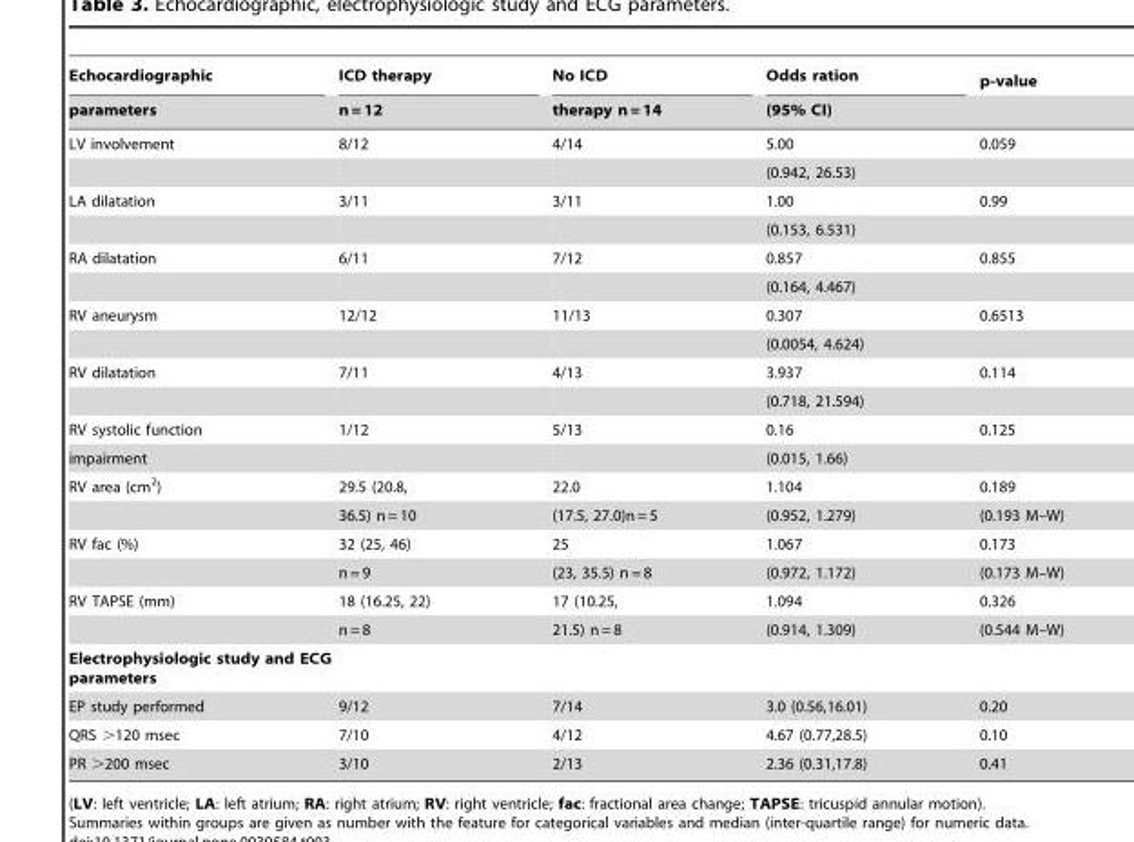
<table><thead><tr><td rowspan="2">Echocardiographic parameters</td><td rowspan="2">ICD therapy n = 12</td><td rowspan="2">No ICD therapy n = 14</td><td rowspan="2">Odds ration (95% CI)</td><td rowspan="2">p-value</td></tr><tr></tr></thead><tbody><tr><td rowspan="2">LV involvement</td><td>8/12</td><td>4/14</td><td>5.00</td><td>0.059</td></tr><tr><td></td><td></td><td>(0.942, 26.53)</td><td></td></tr><tr><td rowspan="2">LA dilatation</td><td>3/11</td><td>3/11</td><td>1.00</td><td>0.99</td></tr><tr><td></td><td></td><td>(0.153, 6.531)</td><td></td></tr><tr><td rowspan="2">RA dilatation</td><td>6/11</td><td>7/12</td><td>0.857</td><td>0.855</td></tr><tr><td></td><td></td><td>(0.164, 4.467)</td><td></td></tr><tr><td rowspan="2">RV aneurysm</td><td>12/12</td><td>11/13</td><td>0.307</td><td>0.6513</td></tr><tr><td></td><td></td><td>(0.0054, 4.624)</td><td></td></tr><tr><td rowspan="2">RV dilatation</td><td>7/11</td><td>4/13</td><td>3.937</td><td>0.114</td></tr><tr><td></td><td></td><td>(0.718, 21.594)</td><td></td></tr><tr><td>RV systolic function</td><td>1/12</td><td>5/13</td><td>0.16</td><td>0.125</td></tr><tr><td>impairment</td><td></td><td></td><td>(0.015, 1.66)</td><td></td></tr><tr><td rowspan="2">RV area (cm<sup>2</sup>)</td><td>29.5 (20.8,</td><td>22.0</td><td>1.104</td><td>0.189</td></tr><tr><td>36.5) n = 10</td><td>(17.5, 27.0)n = 5</td><td>(0.952, 1.279)</td><td>(0.193 M–W)</td></tr><tr><td rowspan="2">RV fac (%)</td><td>32 (25, 46)</td><td>25</td><td>1.067</td><td>0.173</td></tr><tr><td>n = 9</td><td>(23, 35.5) n = 8</td><td>(0.972, 1.172)</td><td>(0.173 M–W)</td></tr><tr><td rowspan="2">RV TAPSE (mm)</td><td>18 (16.25, 22)</td><td>17 (10.25,</td><td>1.094</td><td>0.326</td></tr><tr><td>n = 8</td><td>21.5) n = 8</td><td>(0.914, 1.309)</td><td>(0.544 M–W)</td></tr><tr><td colspan="5">Electrophysiologic study and ECG parameters</td></tr><tr><td>EP study performed</td><td>9/12</td><td>7/14</td><td>3.0 (0.56,16.01)</td><td>0.20</td></tr><tr><td>QRS &gt;120 msec</td><td>7/10</td><td>4/12</td><td>4.67 (0.77,28.5)</td><td>0.10</td></tr><tr><td>PR &gt;200 msec</td><td>3/10</td><td>2/13</td><td>2.36 (0.31,17.8)</td><td>0.41</td></tr></tbody></table>